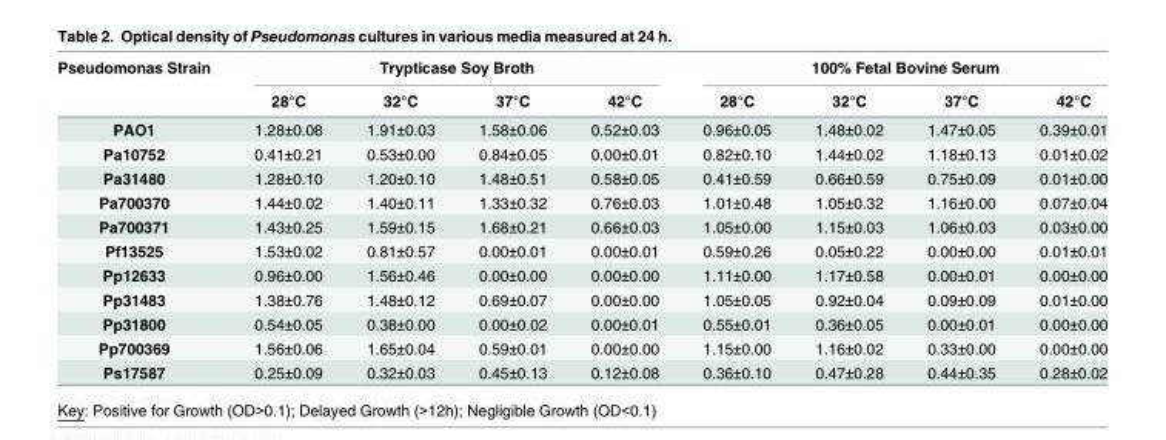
<table><thead><tr><td rowspan="2">Pseudomonas Strain</td><td colspan="4">Trypticase Soy Broth</td><td colspan="4">100% Fetal Bovine Serum</td></tr><tr><td>28°C</td><td>32°C</td><td>37°C</td><td>42°C</td><td>28°C</td><td>32°C</td><td>37°C</td><td>42°C</td></tr></thead><tbody><tr><td>PAO1</td><td>1.28±0.08</td><td>1.91±0.03</td><td>1.58±0.06</td><td>0.52±0.03</td><td>0.96±0.05</td><td>1.48±0.02</td><td>1.47±0.05</td><td>0.39±0.01</td></tr><tr><td>Pa10752</td><td>0.41±0.21</td><td>0.53±0.00</td><td>0.84±0.05</td><td>0.00±0.01</td><td>0.82±0.10</td><td>1.44±0.02</td><td>1.18±0.13</td><td>0.01±0.02</td></tr><tr><td>Pa31480</td><td>1.28±0.10</td><td>1.20±0.10</td><td>1.48±0.51</td><td>0.58±0.05</td><td>0.41±0.59</td><td>0.66±0.59</td><td>0.75±0.09</td><td>0.01±0.00</td></tr><tr><td>Pa700370</td><td>1.44±0.02</td><td>1.40±0.11</td><td>1.33±0.32</td><td>0.76±0.03</td><td>1.01±0.48</td><td>1.05±0.32</td><td>1.16±0.00</td><td>0.07±0.04</td></tr><tr><td>Pa700371</td><td>1.43±0.25</td><td>1.59±0.15</td><td>1.68±0.21</td><td>0.66±0.03</td><td>1.05±0.00</td><td>1.15±0.03</td><td>1.06±0.03</td><td>0.03±0.00</td></tr><tr><td>Pf13525</td><td>1.53±0.02</td><td>0.81±0.57</td><td>0.00±0.01</td><td>0.00±0.01</td><td>0.59±0.26</td><td>0.05±0.22</td><td>0.00±0.00</td><td>0.01±0.01</td></tr><tr><td>Pp12633</td><td>0.96±0.00</td><td>1.56±0.46</td><td>0.00±0.00</td><td>0.00±0.00</td><td>1.11±0.00</td><td>1.17±0.58</td><td>0.00±0.01</td><td>0.00±0.00</td></tr><tr><td>Pp31483</td><td>1.38±0.76</td><td>1.48±0.12</td><td>0.69±0.07</td><td>0.00±0.00</td><td>1.05±0.05</td><td>0.92±0.04</td><td>0.09±0.09</td><td>0.01±0.00</td></tr><tr><td>Pp31800</td><td>0.54±0.05</td><td>0.38±0.00</td><td>0.00±0.02</td><td>0.00±0.01</td><td>0.55±0.01</td><td>0.36±0.05</td><td>0.00±0.01</td><td>0.00±0.00</td></tr><tr><td>Pp700369</td><td>1.56±0.06</td><td>1.65±0.04</td><td>0.59±0.01</td><td>0.00±0.00</td><td>1.15±0.00</td><td>1.16±0.02</td><td>0.33±0.00</td><td>0.00±0.00</td></tr><tr><td>Ps17587</td><td>0.25±0.09</td><td>0.32±0.03</td><td>0.45±0.13</td><td>0.12±0.08</td><td>0.36±0.10</td><td>0.47±0.28</td><td>0.44±0.35</td><td>0.28±0.02</td></tr></tbody></table>